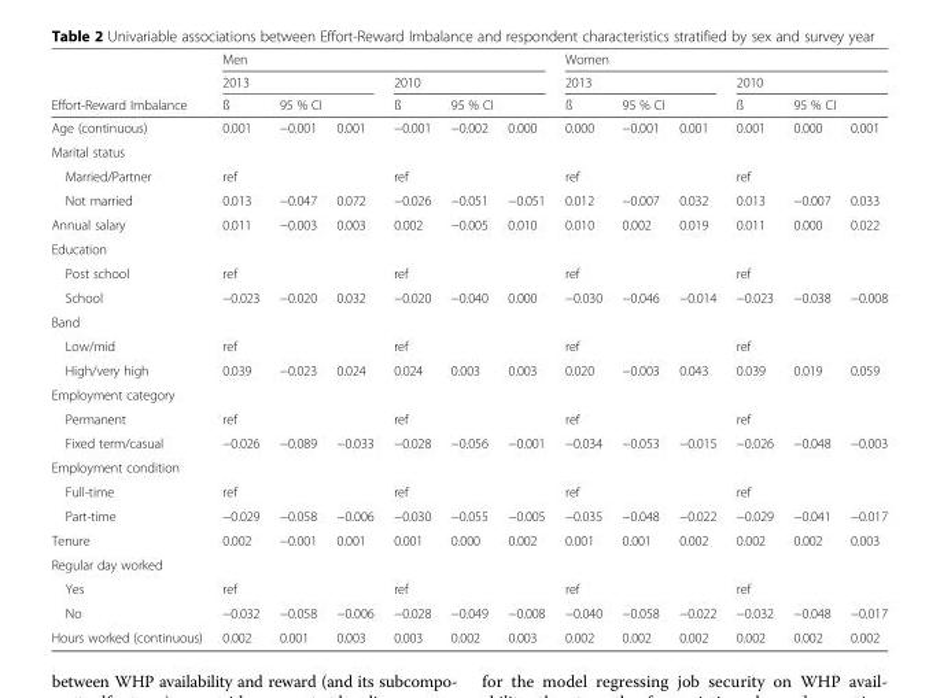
<table><thead><tr><td rowspan="4">Effort-Reward Imbalance Age (continuous)</td><td colspan="6">Men</td><td colspan="6">Women</td></tr><tr><td colspan="3">2013</td><td colspan="3">2010</td><td colspan="3">2013</td><td colspan="3">2010</td></tr><tr><td rowspan="2">ß 0.001</td><td colspan="2">95 % CI</td><td rowspan="2">ß −0.001</td><td colspan="2">95 % CI</td><td rowspan="2">ß 0.000</td><td colspan="2">95 % CI</td><td rowspan="2">ß 0.001</td><td colspan="2">95 % CI</td></tr><tr><td>−0.001</td><td>0.001</td><td>−0.002</td><td>0.000</td><td>−0.001</td><td>0.001</td><td>0.000</td><td>0.001</td></tr></thead><tbody><tr><td colspan="13">Marital status</td></tr><tr><td>Married/Partner</td><td>ref</td><td></td><td></td><td>ref</td><td></td><td></td><td>ref</td><td></td><td></td><td>ref</td><td></td><td></td></tr><tr><td>Not married</td><td>0.013</td><td>−0.047</td><td>0.072</td><td>−0.026</td><td>−0.051</td><td>−0.051</td><td>0.012</td><td>−0.007</td><td>0.032</td><td>0.013</td><td>−0.007</td><td>0.033</td></tr><tr><td>Annual salary</td><td>0.011</td><td>−0.003</td><td>0.003</td><td>0.002</td><td>−0.005</td><td>0.010</td><td>0.010</td><td>0.002</td><td>0.019</td><td>0.011</td><td>0.000</td><td>0.022</td></tr><tr><td colspan="13">Education</td></tr><tr><td>Post school</td><td>ref</td><td></td><td></td><td>ref</td><td></td><td></td><td>ref</td><td></td><td></td><td>ref</td><td></td><td></td></tr><tr><td>School</td><td>−0.023</td><td>−0.020</td><td>0.032</td><td>−0.020</td><td>−0.040</td><td>0.000</td><td>−0.030</td><td>−0.046</td><td>−0.014</td><td>−0.023</td><td>−0.038</td><td>−0.008</td></tr><tr><td colspan="13">Band</td></tr><tr><td>Low/mid</td><td>ref</td><td></td><td></td><td>ref</td><td></td><td></td><td>ref</td><td></td><td></td><td>ref</td><td></td><td></td></tr><tr><td>High/very high</td><td>0.039</td><td>−0.023</td><td>0.024</td><td>0.024</td><td>0.003</td><td>0.003</td><td>0.020</td><td>−0.003</td><td>0.043</td><td>0.039</td><td>0.019</td><td>0.059</td></tr><tr><td colspan="13">Employment category</td></tr><tr><td>Permanent</td><td>ref</td><td></td><td></td><td>ref</td><td></td><td></td><td>ref</td><td></td><td></td><td>ref</td><td></td><td></td></tr><tr><td>Fixed term/casual</td><td>−0.026</td><td>−0.089</td><td>−0.033</td><td>−0.028</td><td>−0.056</td><td>−0.001</td><td>−0.034</td><td>−0.053</td><td>−0.015</td><td>−0.026</td><td>−0.048</td><td>−0.003</td></tr><tr><td colspan="13">Employment condition</td></tr><tr><td>Full-time</td><td>ref</td><td></td><td></td><td>ref</td><td></td><td></td><td>ref</td><td></td><td></td><td>ref</td><td></td><td></td></tr><tr><td>Part-time</td><td>−0.029</td><td>−0.058</td><td>−0.006</td><td>−0.030</td><td>−0.055</td><td>−0.005</td><td>−0.035</td><td>−0.048</td><td>−0.022</td><td>−0.029</td><td>−0.041</td><td>−0.017</td></tr><tr><td>Tenure</td><td>0.002</td><td>−0.001</td><td>0.001</td><td>0.001</td><td>0.000</td><td>0.002</td><td>0.001</td><td>0.001</td><td>0.002</td><td>0.002</td><td>0.002</td><td>0.003</td></tr><tr><td colspan="13">Regular day worked</td></tr><tr><td>Yes</td><td>ref</td><td></td><td></td><td>ref</td><td></td><td></td><td>ref</td><td></td><td></td><td>ref</td><td></td><td></td></tr><tr><td>No</td><td>−0.032</td><td>−0.058</td><td>−0.006</td><td>−0.028</td><td>−0.049</td><td>−0.008</td><td>−0.040</td><td>−0.058</td><td>−0.022</td><td>−0.032</td><td>−0.048</td><td>−0.017</td></tr><tr><td>Hours worked (continuous)</td><td>0.002</td><td>0.001</td><td>0.003</td><td>0.003</td><td>0.002</td><td>0.003</td><td>0.002</td><td>0.002</td><td>0.002</td><td>0.002</td><td>0.002</td><td>0.002</td></tr></tbody></table>